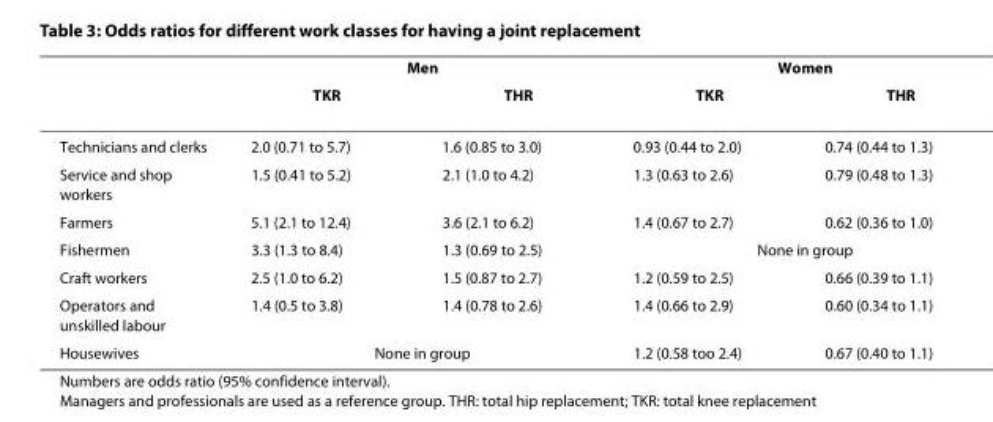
<table><thead><tr><td rowspan="2"></td><td colspan="2">Men</td><td colspan="2">Women</td></tr><tr><td>TKR</td><td>THR</td><td>TKR</td><td>THR</td></tr></thead><tbody><tr><td>Technicians and clerks</td><td>2.0 (0.71 to 5.7)</td><td>1.6 (0.85 to 3.0)</td><td>0.93 (0.44 to 2.0)</td><td>0.74 (0.44 to 1.3)</td></tr><tr><td>Service and shop workers</td><td>1.5 (0.41 to 5.2)</td><td>2.1 (1.0 to 4.2)</td><td>1.3 (0.63 to 2.6)</td><td>0.79 (0.48 to 1.3)</td></tr><tr><td>Farmers</td><td>5.1 (2.1 to 12.4)</td><td>3.6 (2.1 to 6.2)</td><td>1.4 (0.67 to 2.7)</td><td>0.62 (0.36 to 1.0)</td></tr><tr><td>Fishermen</td><td>3.3 (1.3 to 8.4)</td><td>1.3 (0.69 to 2.5)</td><td colspan="2">None in group</td></tr><tr><td>Craft workers</td><td>2.5 (1.0 to 6.2)</td><td>1.5 (0.87 to 2.7)</td><td>1.2 (0.59 to 2.5)</td><td>0.66 (0.39 to 1.1)</td></tr><tr><td>Operators and unskilled labour</td><td>1.4 (0.5 to 3.8)</td><td>1.4 (0.78 to 2.6)</td><td>1.4 (0.66 to 2.9)</td><td>0.60 (0.34 to 1.1)</td></tr><tr><td>Housewives</td><td colspan="2">None in group</td><td>1.2 (0.58 too 2.4)</td><td>0.67 (0.40 to 1.1)</td></tr></tbody></table>